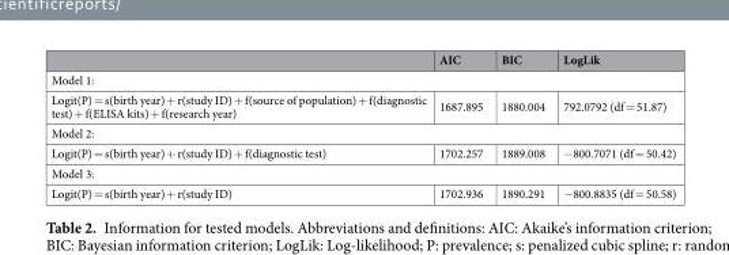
<table><thead><tr><td></td><td>AIC</td><td>BIC</td><td>LogLik</td></tr></thead><tbody><tr><td colspan="4">Model 1:</td></tr><tr><td>Logit(P) = s(birth year) + r(study ID) + f(source of population) + f(diagnostic test) + f(ELISA kits) + f(research year)</td><td>1687.895</td><td>1880.004</td><td>792.0792 (df = 51.87)</td></tr><tr><td colspan="4">Model 2:</td></tr><tr><td>Logit(P) = s(birth year) + r(study ID) + f(diagnostic test)</td><td>1702.257</td><td>1889.008</td><td>−800.7071 (df = 50.42)</td></tr><tr><td colspan="4">Model 3:</td></tr><tr><td>Logit(P) = s(birth year) + r(study ID)</td><td>1702.936</td><td>1890.291</td><td>−800.8835 (df = 50.58)</td></tr></tbody></table>